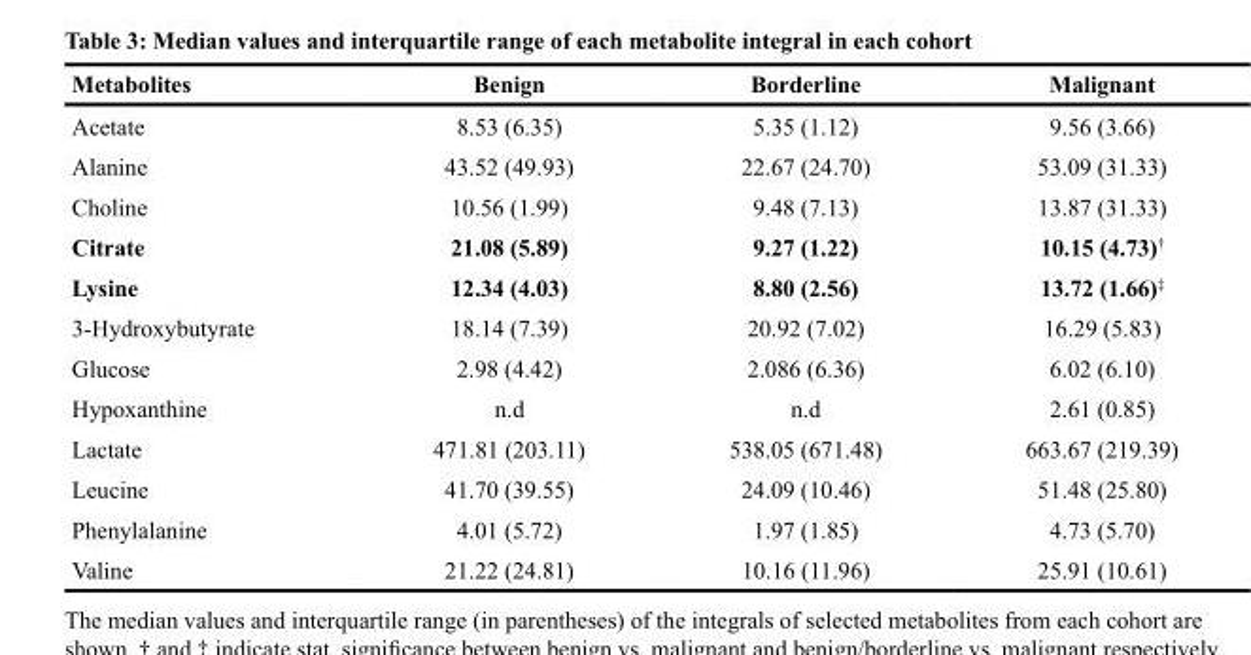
<table><thead><tr><td>Metabolites</td><td>Benign</td><td>Borderline</td><td>Malignant</td></tr></thead><tbody><tr><td>Acetate</td><td>8.53 (6.35)</td><td>5.35 (1.12)</td><td>9.56 (3.66)</td></tr><tr><td>Alanine</td><td>43.52 (49.93)</td><td>22.67 (24.70)</td><td>53.09 (31.33)</td></tr><tr><td>Choline</td><td>10.56 (1.99)</td><td>9.48 (7.13)</td><td>13.87 (31.33)</td></tr><tr><td>Citrate</td><td>21.08 (5.89)</td><td>9.27 (1.22)</td><td>10.15 (4.73)<sup>†</sup></td></tr><tr><td>Lysine</td><td>12.34 (4.03)</td><td>8.80 (2.56)</td><td>13.72 (1.66)<sup>‡</sup></td></tr><tr><td>3-Hydroxybutyrate</td><td>18.14 (7.39)</td><td>20.92 (7.02)</td><td>16.29 (5.83)</td></tr><tr><td>Glucose</td><td>2.98 (4.42)</td><td>2.086 (6.36)</td><td>6.02 (6.10)</td></tr><tr><td>Hypoxanthine</td><td>n.d</td><td>n.d</td><td>2.61 (0.85)</td></tr><tr><td>Lactate</td><td>471.81 (203.11)</td><td>538.05 (671.48)</td><td>663.67 (219.39)</td></tr><tr><td>Leucine</td><td>41.70 (39.55)</td><td>24.09 (10.46)</td><td>51.48 (25.80)</td></tr><tr><td>Phenylalanine</td><td>4.01 (5.72)</td><td>1.97 (1.85)</td><td>4.73 (5.70)</td></tr><tr><td>Valine</td><td>21.22 (24.81)</td><td>10.16 (11.96)</td><td>25.91 (10.61)</td></tr></tbody></table>